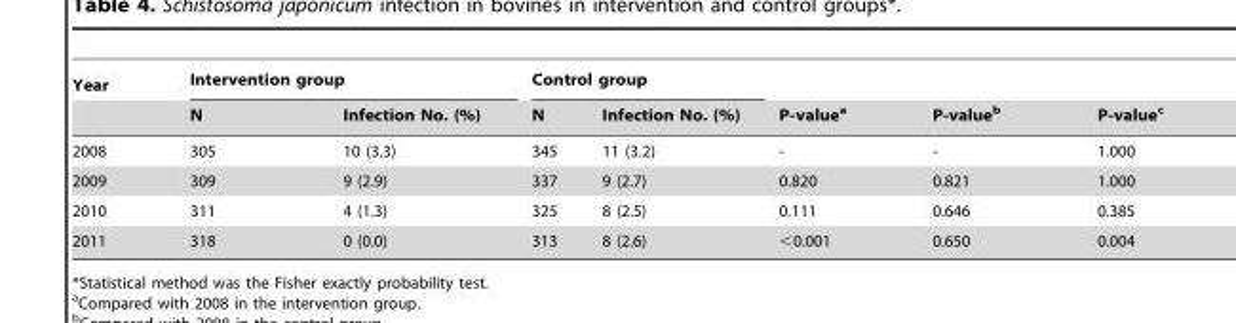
<table><thead><tr><td rowspan="2">Year</td><td colspan="2">Intervention group</td><td colspan="2">Control group</td><td rowspan="2">P-value<sup>a</sup></td><td rowspan="2">P-value<sup>b</sup></td><td rowspan="2">P-value<sup>c</sup></td></tr><tr><td>N</td><td>Infection No. (%)</td><td>N</td><td>Infection No. (%)</td></tr></thead><tbody><tr><td>2008</td><td>305</td><td>10 (3.3)</td><td>345</td><td>11 (3.2)</td><td>-</td><td>-</td><td>1.000</td></tr><tr><td>2009</td><td>309</td><td>9 (2.9)</td><td>337</td><td>9 (2.7)</td><td>0.820</td><td>0.821</td><td>1.000</td></tr><tr><td>2010</td><td>311</td><td>4 (1.3)</td><td>325</td><td>8 (2.5)</td><td>0.111</td><td>0.646</td><td>0.385</td></tr><tr><td>2011</td><td>318</td><td>0 (0.0)</td><td>313</td><td>8 (2.6)</td><td>&lt;0.001</td><td>0.650</td><td>0.004</td></tr></tbody></table>